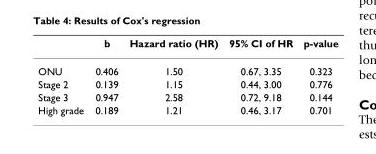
<table><thead><tr><td></td><td>b</td><td>Hazard ratio (HR)</td><td>95% CI of HR</td><td>p-value</td></tr></thead><tbody><tr><td>ONU</td><td>0.406</td><td>1.50</td><td>0.67, 3.35</td><td>0.323</td></tr><tr><td>Stage 2</td><td>0.139</td><td>1.15</td><td>0.44, 3.00</td><td>0.776</td></tr><tr><td>Stage 3</td><td>0.947</td><td>2.58</td><td>0.72, 9.18</td><td>0.144</td></tr><tr><td>High grade</td><td>0.189</td><td>1.21</td><td>0.46, 3.17</td><td>0.701</td></tr></tbody></table>